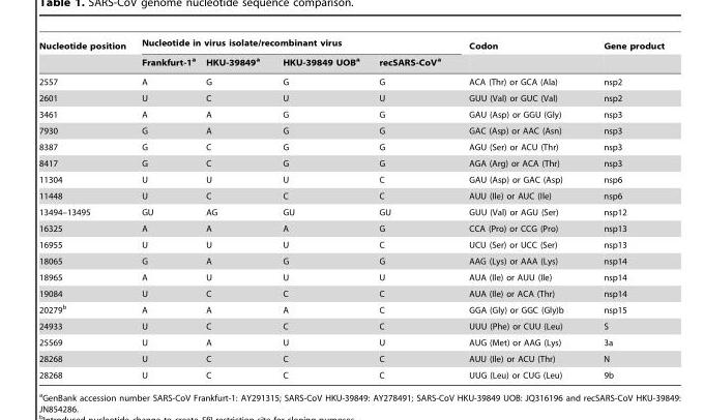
<table><thead><tr><td rowspan="2">Nucleotide position</td><td colspan="4">Nucleotide in virus isolate/recombinant virus</td><td rowspan="2">Codon</td><td rowspan="2">Gene product</td></tr><tr><td>Frankfurt-1<sup>a</sup></td><td>HKU-39849<sup>a</sup></td><td>HKU-39849 UOB<sup>a</sup></td><td>recSARS-CoV<sup>a</sup></td></tr></thead><tbody><tr><td>2557</td><td>A</td><td>G</td><td>G</td><td>G</td><td>ACA (Thr) or GCA (Ala)</td><td>nsp2</td></tr><tr><td>2601</td><td>U</td><td>C</td><td>U</td><td>U</td><td>GUU (Val) or GUC (Val)</td><td>nsp2</td></tr><tr><td>3461</td><td>A</td><td>A</td><td>G</td><td>G</td><td>GAU (Asp) or GGU (Gly)</td><td>nsp3</td></tr><tr><td>7930</td><td>G</td><td>A</td><td>G</td><td>G</td><td>GAC (Asp) or AAC (Asn)</td><td>nsp3</td></tr><tr><td>8387</td><td>G</td><td>C</td><td>G</td><td>G</td><td>AGU (Ser) or ACU (Thr)</td><td>nsp3</td></tr><tr><td>8417</td><td>G</td><td>C</td><td>G</td><td>G</td><td>AGA (Arg) or ACA (Thr)</td><td>nsp3</td></tr><tr><td>11304</td><td>U</td><td>U</td><td>U</td><td>C</td><td>GAU (Asp) or GAC (Asp)</td><td>nsp6</td></tr><tr><td>11448</td><td>U</td><td>C</td><td>C</td><td>C</td><td>AUU (Ile) or AUC (Ile)</td><td>nsp6</td></tr><tr><td>13494–13495</td><td>GU</td><td>AG</td><td>GU</td><td>GU</td><td>GUU (Val) or AGU (Ser)</td><td>nsp12</td></tr><tr><td>16325</td><td>A</td><td>A</td><td>A</td><td>G</td><td>CCA (Pro) or CCG (Pro)</td><td>nsp13</td></tr><tr><td>16955</td><td>U</td><td>U</td><td>U</td><td>C</td><td>UCU (Ser) or UCC (Ser)</td><td>nsp13</td></tr><tr><td>18065</td><td>G</td><td>A</td><td>G</td><td>G</td><td>AAG (Lys) or AAA (Lys)</td><td>nsp14</td></tr><tr><td>18965</td><td>A</td><td>U</td><td>U</td><td>U</td><td>AUA (Ile) or AUU (Ile)</td><td>nsp14</td></tr><tr><td>19084</td><td>U</td><td>C</td><td>C</td><td>C</td><td>AUA (Ile) or ACA (Thr)</td><td>nsp14</td></tr><tr><td>20279<sup>b</sup></td><td>A</td><td>A</td><td>A</td><td>C</td><td>GGA (Gly) or GGC (Gly)b</td><td>nsp15</td></tr><tr><td>24933</td><td>U</td><td>C</td><td>C</td><td>C</td><td>UUU (Phe) or CUU (Leu)</td><td>S</td></tr><tr><td>25569</td><td>U</td><td>A</td><td>U</td><td>U</td><td>AUG (Met) or AAG (Lys)</td><td>3a</td></tr><tr><td>28268</td><td>U</td><td>C</td><td>C</td><td>C</td><td>AUU (Ile) or ACU (Thr)</td><td>N</td></tr><tr><td>28268</td><td>U</td><td>C</td><td>C</td><td>C</td><td>UUG (Leu) or CUG (Leu)</td><td>9b</td></tr></tbody></table>